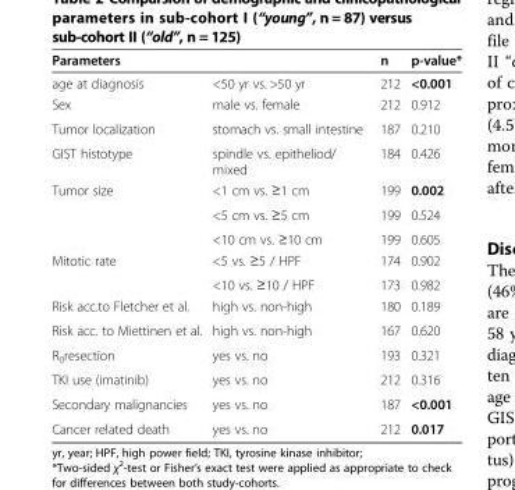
<table><thead><tr><td>Parameters</td><td></td><td>n</td><td>p-value*</td></tr></thead><tbody><tr><td>age at diagnosis</td><td>&lt;50 yr vs. &gt;50 yr</td><td>212</td><td>&lt;0.001</td></tr><tr><td>Sex</td><td>male vs. female</td><td>212</td><td>0.912</td></tr><tr><td>Tumor localization</td><td>stomach vs. small intestine</td><td>187</td><td>0.210</td></tr><tr><td>GIST histotype</td><td>spindle vs. epitheliod/ mixed</td><td>184</td><td>0.426</td></tr><tr><td rowspan="3">Tumor size</td><td>&lt;1 cm vs. ≥1 cm</td><td>199</td><td>0.002</td></tr><tr><td>&lt;5 cm vs. ≥5 cm</td><td>199</td><td>0.524</td></tr><tr><td>&lt;10 cm vs. ≥10 cm</td><td>199</td><td>0.605</td></tr><tr><td rowspan="2">Mitotic rate</td><td>&lt;5 vs. ≥5 / HPF</td><td>174</td><td>0.902</td></tr><tr><td>&lt;10 vs. ≥10 / HPF</td><td>173</td><td>0.982</td></tr><tr><td>Risk acc.to Fletcher et al.</td><td>high vs. non-high</td><td>180</td><td>0.189</td></tr><tr><td>Risk acc. to Miettinen et al.</td><td>high vs. non-high</td><td>167</td><td>0.620</td></tr><tr><td>R<sub>0</sub>resection</td><td>yes vs. no</td><td>193</td><td>0.321</td></tr><tr><td>TKI use (imatinib)</td><td>yes vs. no</td><td>212</td><td>0.316</td></tr><tr><td>Secondary malignancies</td><td>yes vs. no</td><td>187</td><td>&lt;0.001</td></tr><tr><td>Cancer related death</td><td>yes vs. no</td><td>212</td><td>0.017</td></tr></tbody></table>